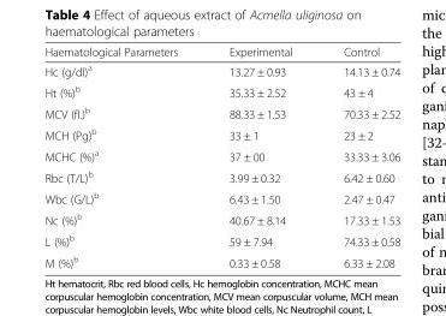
<table><thead><tr><td>Haematological Parameters</td><td>Experimental</td><td>Control</td></tr></thead><tbody><tr><td>Hc (g/dl)<sup>a</sup></td><td>13.27 ± 0.93</td><td>14.13 ± 0.74</td></tr><tr><td>Ht (%)<sup>b</sup></td><td>35.33 ± 2.52</td><td>43 ± 4</td></tr><tr><td>MCV (fl.)<sup>b</sup></td><td>88.33 ± 1.53</td><td>70.33 ± 2.52</td></tr><tr><td>MCH (Pg)<sup>b</sup></td><td>33 ± 1</td><td>23 ± 2</td></tr><tr><td>MCHC (%)<sup>a</sup></td><td>37 ± 00</td><td>33.33 ± 3.06</td></tr><tr><td>Rbc (T/L)<sup>b</sup></td><td>3.99 ± 0.32</td><td>6.42 ± 0.60</td></tr><tr><td>Wbc (G/L)<sup>b</sup></td><td>6.43 ± 1.50</td><td>2.47 ± 0.47</td></tr><tr><td>Nc (%)<sup>b</sup></td><td>40.67 ± 8.14</td><td>17.33 ± 1.53</td></tr><tr><td>L (%)<sup>b</sup></td><td>59 ± 7.94</td><td>74.33 ± 0.58</td></tr><tr><td>M (%)<sup>b</sup></td><td>0.33 ± 0.58</td><td>6.33 ± 2.08</td></tr></tbody></table>